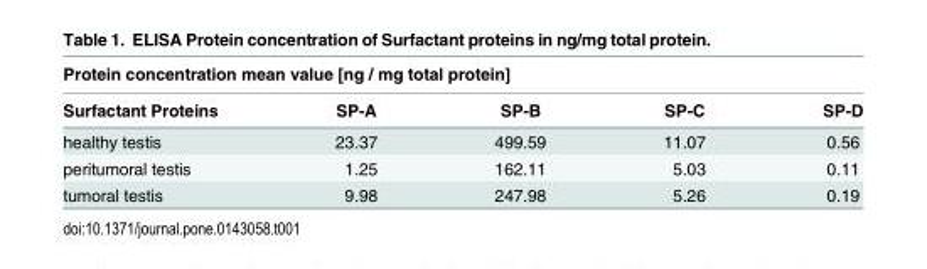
<table><thead><tr><td colspan="5">Protein concentration mean value [ng / mg total protein]</td></tr><tr><td>Surfactant Proteins</td><td>SP-A</td><td>SP-B</td><td>SP-C</td><td>SP-D</td></tr></thead><tbody><tr><td>healthy testis</td><td>23.37</td><td>499.59</td><td>11.07</td><td>0.56</td></tr><tr><td>peritumoral testis</td><td>1.25</td><td>162.11</td><td>5.03</td><td>0.11</td></tr><tr><td>tumoral testis</td><td>9.98</td><td>247.98</td><td>5.26</td><td>0.19</td></tr></tbody></table>